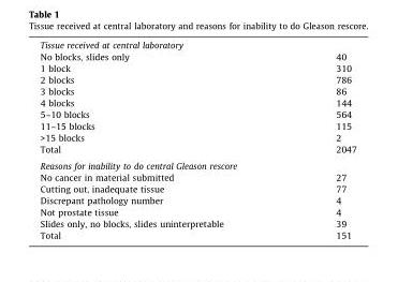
<table><tbody><tr><td colspan="2">Tissue received at central laboratory</td></tr><tr><td>No blocks, slides only</td><td>40</td></tr><tr><td>1 block</td><td>310</td></tr><tr><td>2 blocks</td><td>786</td></tr><tr><td>3 blocks</td><td>86</td></tr><tr><td>4 blocks</td><td>144</td></tr><tr><td>5–10 blocks</td><td>564</td></tr><tr><td>11–15 blocks</td><td>115</td></tr><tr><td>&gt;15 blocks</td><td>2</td></tr><tr><td>Total</td><td>2047</td></tr><tr><td colspan="2">Reasons for inability to do central Gleason rescore</td></tr><tr><td>No cancer in material submitted</td><td>27</td></tr><tr><td>Cutting out, inadequate tissue</td><td>77</td></tr><tr><td>Discrepant pathology number</td><td>4</td></tr><tr><td>Not prostate tissue</td><td>4</td></tr><tr><td>Slides only, no blocks, slides uninterpretable</td><td>39</td></tr><tr><td>Total</td><td>151</td></tr></tbody></table>